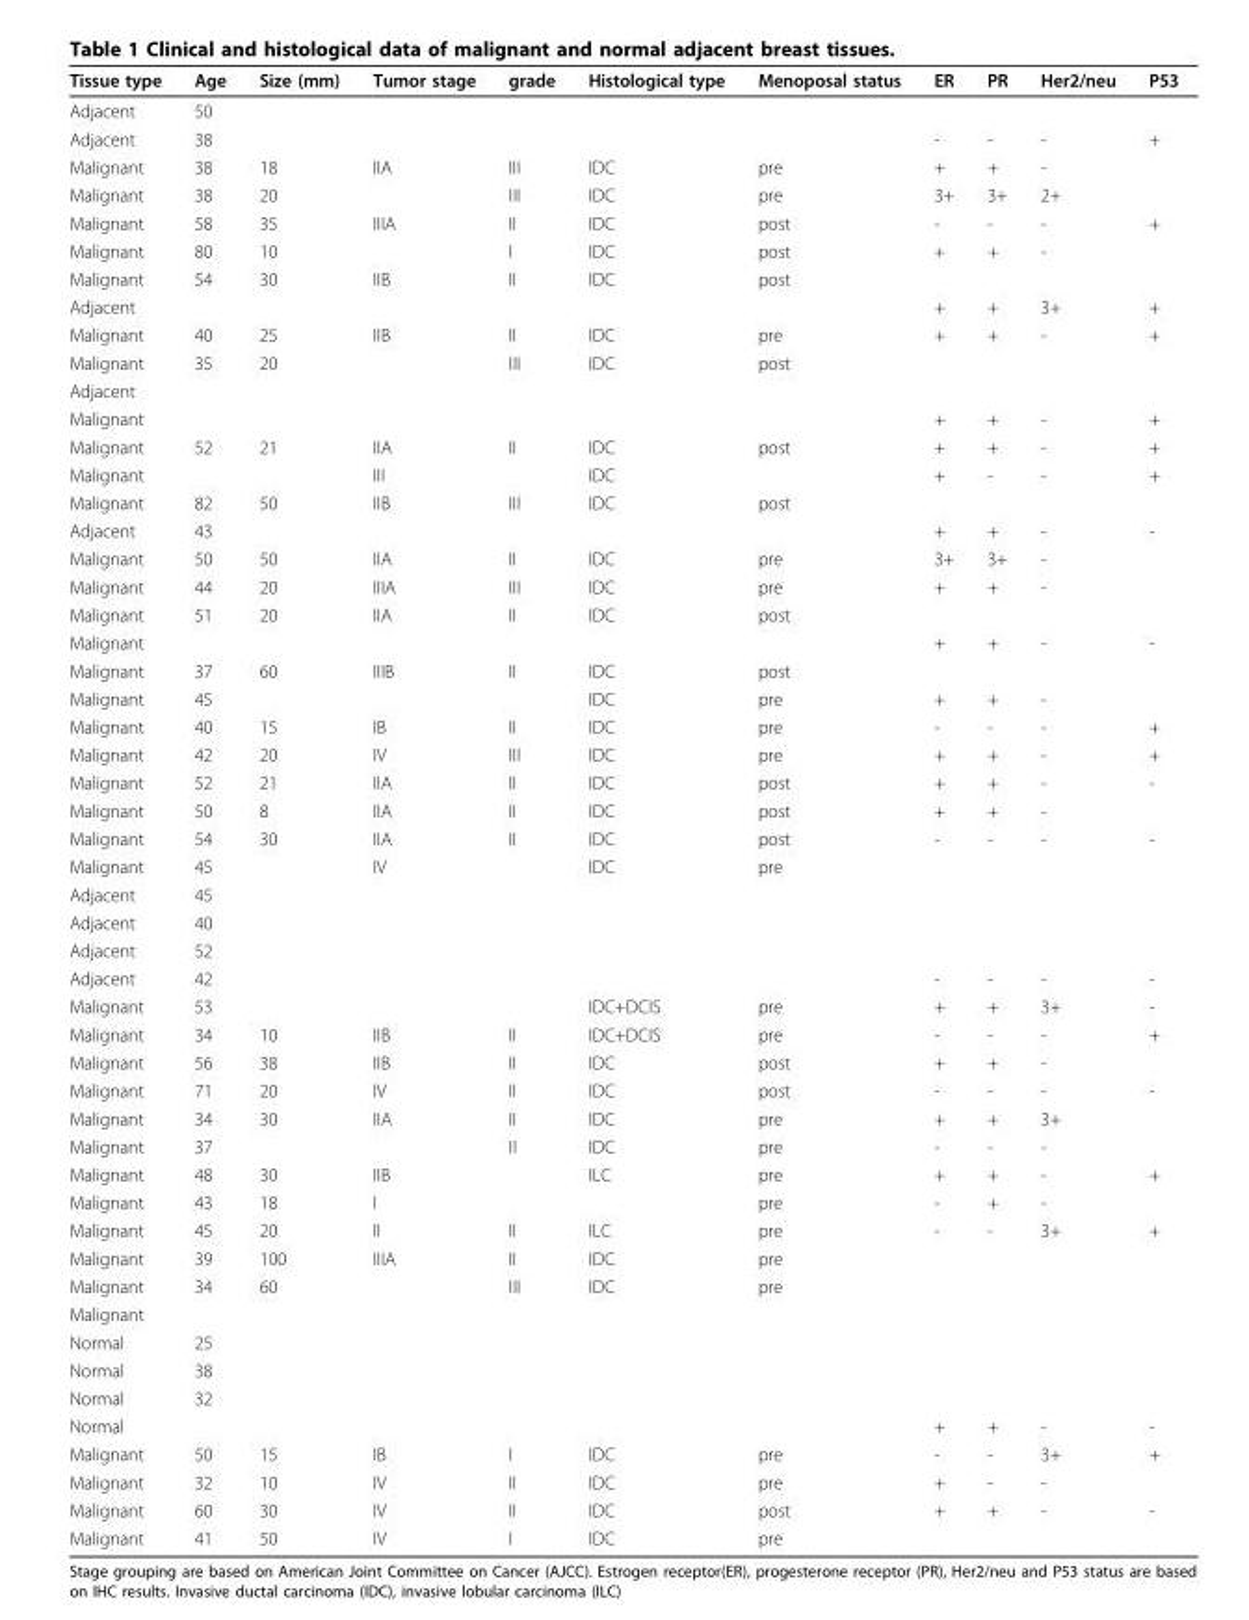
<table><thead><tr><td>Tissue type</td><td>Age</td><td>Size (mm)</td><td>Tumor stage</td><td>grade</td><td>Histological type</td><td>Menoposal status</td><td>ER</td><td>PR</td><td>Her2/neu</td><td>P53</td></tr></thead><tbody><tr><td>Adjacent</td><td>50</td><td></td><td></td><td></td><td></td><td></td><td></td><td></td><td></td><td></td></tr><tr><td>Adjacent</td><td>38</td><td></td><td></td><td></td><td></td><td></td><td>-</td><td>-</td><td>-</td><td>+</td></tr><tr><td>Malignant</td><td>38</td><td>18</td><td>IIA</td><td>III</td><td>IDC</td><td>pre</td><td>+</td><td>+</td><td>-</td><td></td></tr><tr><td>Malignant</td><td>38</td><td>20</td><td></td><td>III</td><td>IDC</td><td>pre</td><td>3+</td><td>3+</td><td>2+</td><td></td></tr><tr><td>Malignant</td><td>58</td><td>35</td><td>IIIA</td><td>II</td><td>IDC</td><td>post</td><td>-</td><td>-</td><td>-</td><td>+</td></tr><tr><td>Malignant</td><td>80</td><td>10</td><td></td><td>I</td><td>IDC</td><td>post</td><td>+</td><td>+</td><td>-</td><td></td></tr><tr><td>Malignant</td><td>54</td><td>30</td><td>IIB</td><td>II</td><td>IDC</td><td>post</td><td></td><td></td><td></td><td></td></tr><tr><td>Adjacent</td><td></td><td></td><td></td><td></td><td></td><td></td><td>+</td><td>+</td><td>3+</td><td>+</td></tr><tr><td>Malignant</td><td>40</td><td>25</td><td>IIB</td><td>II</td><td>IDC</td><td>pre</td><td>+</td><td>+</td><td>-</td><td>+</td></tr><tr><td>Malignant</td><td>35</td><td>20</td><td></td><td>III</td><td>IDC</td><td>post</td><td></td><td></td><td></td><td></td></tr><tr><td colspan="11">Adjacent</td></tr><tr><td>Malignant</td><td></td><td></td><td></td><td></td><td></td><td></td><td>+</td><td>+</td><td>-</td><td>+</td></tr><tr><td>Malignant</td><td>52</td><td>21</td><td>IIA</td><td>II</td><td>IDC</td><td>post</td><td>+</td><td>+</td><td>-</td><td>+</td></tr><tr><td>Malignant</td><td></td><td></td><td>III</td><td></td><td>IDC</td><td></td><td>+</td><td>-</td><td>-</td><td>+</td></tr><tr><td>Malignant</td><td>82</td><td>50</td><td>IIB</td><td>III</td><td>IDC</td><td>post</td><td></td><td></td><td></td><td></td></tr><tr><td>Adjacent</td><td>43</td><td></td><td></td><td></td><td></td><td></td><td>+</td><td>+</td><td>-</td><td>-</td></tr><tr><td>Malignant</td><td>50</td><td>50</td><td>IIA</td><td>II</td><td>IDC</td><td>pre</td><td>3+</td><td>3+</td><td>-</td><td></td></tr><tr><td>Malignant</td><td>44</td><td>20</td><td>IIIA</td><td>III</td><td>IDC</td><td>pre</td><td>+</td><td>+</td><td>-</td><td></td></tr><tr><td>Malignant</td><td>51</td><td>20</td><td>IIA</td><td>II</td><td>IDC</td><td>post</td><td></td><td></td><td></td><td></td></tr><tr><td>Malignant</td><td></td><td></td><td></td><td></td><td></td><td></td><td>+</td><td>+</td><td>-</td><td>-</td></tr><tr><td>Malignant</td><td>37</td><td>60</td><td>IIIB</td><td>II</td><td>IDC</td><td>post</td><td></td><td></td><td></td><td></td></tr><tr><td>Malignant</td><td>45</td><td></td><td></td><td></td><td>IDC</td><td>pre</td><td>+</td><td>+</td><td>-</td><td></td></tr><tr><td>Malignant</td><td>40</td><td>15</td><td>IB</td><td>II</td><td>IDC</td><td>pre</td><td>-</td><td>-</td><td>-</td><td>+</td></tr><tr><td>Malignant</td><td>42</td><td>20</td><td>IV</td><td>III</td><td>IDC</td><td>pre</td><td>+</td><td>+</td><td>-</td><td>+</td></tr><tr><td>Malignant</td><td>52</td><td>21</td><td>IIA</td><td>II</td><td>IDC</td><td>post</td><td>+</td><td>+</td><td>-</td><td>-</td></tr><tr><td>Malignant</td><td>50</td><td>8</td><td>IIA</td><td>II</td><td>IDC</td><td>post</td><td>+</td><td>+</td><td>-</td><td></td></tr><tr><td>Malignant</td><td>54</td><td>30</td><td>IIA</td><td>II</td><td>IDC</td><td>post</td><td>-</td><td>-</td><td>-</td><td>-</td></tr><tr><td>Malignant</td><td>45</td><td></td><td>IV</td><td></td><td>IDC</td><td>pre</td><td></td><td></td><td></td><td></td></tr><tr><td>Adjacent</td><td>45</td><td></td><td></td><td></td><td></td><td></td><td></td><td></td><td></td><td></td></tr><tr><td>Adjacent</td><td>40</td><td></td><td></td><td></td><td></td><td></td><td></td><td></td><td></td><td></td></tr><tr><td>Adjacent</td><td>52</td><td></td><td></td><td></td><td></td><td></td><td></td><td></td><td></td><td></td></tr><tr><td>Adjacent</td><td>42</td><td></td><td></td><td></td><td></td><td></td><td>-</td><td>-</td><td>-</td><td>-</td></tr><tr><td>Malignant</td><td>53</td><td></td><td></td><td></td><td>IDC+DCIS</td><td>pre</td><td>+</td><td>+</td><td>3+</td><td>-</td></tr><tr><td>Malignant</td><td>34</td><td>10</td><td>IIB</td><td>II</td><td>IDC+DCIS</td><td>pre</td><td>-</td><td>-</td><td>-</td><td>+</td></tr><tr><td>Malignant</td><td>56</td><td>38</td><td>IIB</td><td>II</td><td>IDC</td><td>post</td><td>+</td><td>+</td><td>-</td><td></td></tr><tr><td>Malignant</td><td>71</td><td>20</td><td>IV</td><td>II</td><td>IDC</td><td>post</td><td>-</td><td>-</td><td>-</td><td>-</td></tr><tr><td>Malignant</td><td>34</td><td>30</td><td>IIA</td><td>II</td><td>IDC</td><td>pre</td><td>+</td><td>+</td><td>3+</td><td></td></tr><tr><td>Malignant</td><td>37</td><td></td><td></td><td>II</td><td>IDC</td><td>pre</td><td>-</td><td>-</td><td>-</td><td></td></tr><tr><td>Malignant</td><td>48</td><td>30</td><td>IIB</td><td></td><td>ILC</td><td>pre</td><td>+</td><td>+</td><td>-</td><td>+</td></tr><tr><td>Malignant</td><td>43</td><td>18</td><td>I</td><td></td><td></td><td>pre</td><td>-</td><td>+</td><td>-</td><td></td></tr><tr><td>Malignant</td><td>45</td><td>20</td><td>II</td><td>II</td><td>ILC</td><td>pre</td><td>-</td><td>-</td><td>3+</td><td>+</td></tr><tr><td>Malignant</td><td>39</td><td>100</td><td>IIIA</td><td>II</td><td>IDC</td><td>pre</td><td></td><td></td><td></td><td></td></tr><tr><td>Malignant</td><td>34</td><td>60</td><td></td><td>III</td><td>IDC</td><td>pre</td><td></td><td></td><td></td><td></td></tr><tr><td colspan="11">Malignant</td></tr><tr><td>Normal</td><td>25</td><td></td><td></td><td></td><td></td><td></td><td></td><td></td><td></td><td></td></tr><tr><td>Normal</td><td>38</td><td></td><td></td><td></td><td></td><td></td><td></td><td></td><td></td><td></td></tr><tr><td>Normal</td><td>32</td><td></td><td></td><td></td><td></td><td></td><td></td><td></td><td></td><td></td></tr><tr><td>Normal</td><td></td><td></td><td></td><td></td><td></td><td></td><td>+</td><td>+</td><td>-</td><td>-</td></tr><tr><td>Malignant</td><td>50</td><td>15</td><td>IB</td><td>I</td><td>IDC</td><td>pre</td><td>-</td><td>-</td><td>3+</td><td>+</td></tr><tr><td>Malignant</td><td>32</td><td>10</td><td>IV</td><td>II</td><td>IDC</td><td>pre</td><td>+</td><td>-</td><td>-</td><td></td></tr><tr><td>Malignant</td><td>60</td><td>30</td><td>IV</td><td>II</td><td>IDC</td><td>post</td><td>+</td><td>+</td><td>-</td><td>-</td></tr><tr><td>Malignant</td><td>41</td><td>50</td><td>IV</td><td>I</td><td>IDC</td><td>pre</td><td></td><td></td><td></td><td></td></tr></tbody></table>